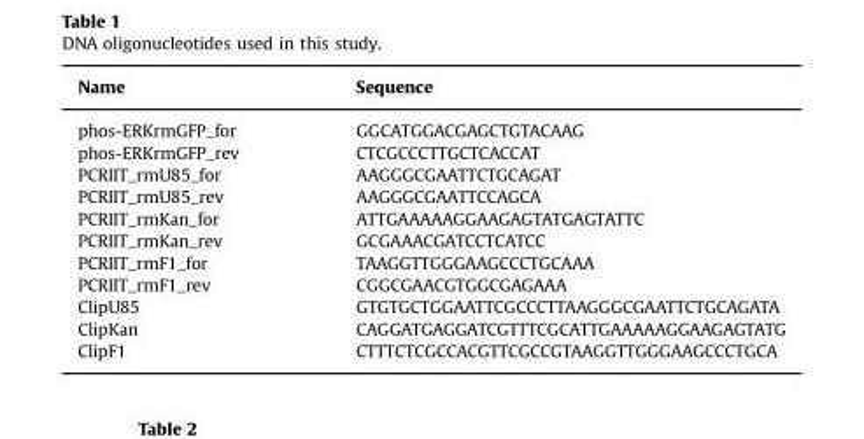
<table><thead><tr><td>Name</td><td>Sequence</td></tr></thead><tbody><tr><td>phos-ERKrmGFP_for</td><td>GGCATGGACGAGCTGTACAAG</td></tr><tr><td>phos-ERKrmGFP_rev</td><td>CTCGCCCTTGCTCACCAT</td></tr><tr><td>PCRIIT_rmU85_for</td><td>AAGGGCGAATTCTGCAGAT</td></tr><tr><td>PCRIIT_rmU85_rev</td><td>AAGGGCGAATTCCAGCA</td></tr><tr><td>PCRIIT_rmKan_for</td><td>ATTGAAAAAGGAAGAGTATGAGTATTC</td></tr><tr><td>PCRIIT_rmKan_rev</td><td>GCGAAACGATCCTCATCC</td></tr><tr><td>PCRIIT_rmF1_for</td><td>TAAGGTTGGGAAGCCCTGCAAA</td></tr><tr><td>PCRIIT_rmF1_rev</td><td>CGGCGAACGTGGCGAGAAA</td></tr><tr><td>ClipU85</td><td>GTGTGCTGGAATTCGCCCTTAAGGGCGAATTCTGCAGATA</td></tr><tr><td>ClipKan</td><td>CAGGATGAGGATCGTTTCGCATTGAAAAAGGAAGAGTATG</td></tr><tr><td>ClipF1</td><td>CTTTCTCGCCACGTTCGCCGTAAGGTTGGGAAGCCCTGCA</td></tr></tbody></table>